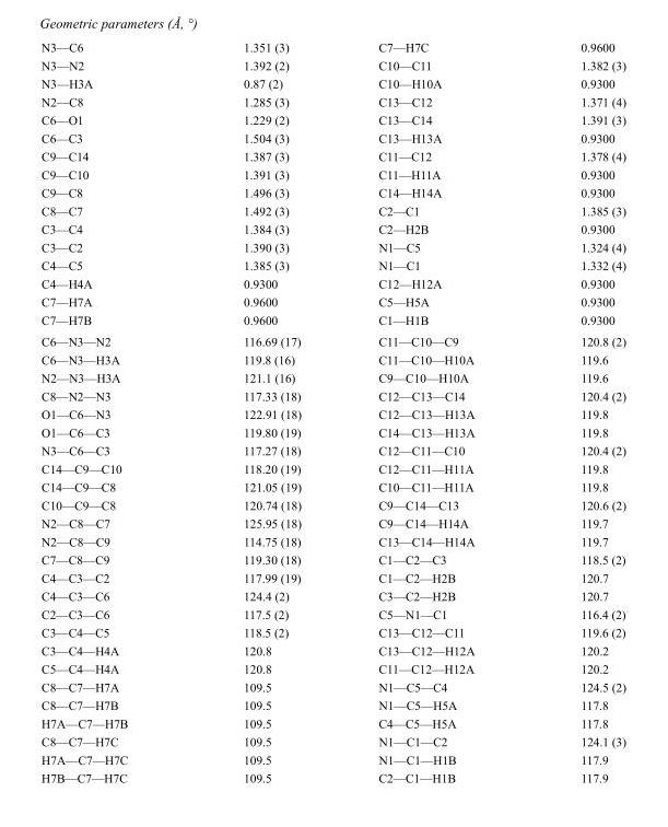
<table><tbody><tr><td>N3—C6</td><td>1.351 (3)</td><td>C7—H7C</td><td>0.9600</td></tr><tr><td>N3—N2</td><td>1.392 (2)</td><td>C10—C11</td><td>1.382 (3)</td></tr><tr><td>N3—H3A</td><td>0.87 (2)</td><td>C10—H10A</td><td>0.9300</td></tr><tr><td>N2—C8</td><td>1.285 (3)</td><td>C13—C12</td><td>1.371 (4)</td></tr><tr><td>C6—O1</td><td>1.229 (2)</td><td>C13—C14</td><td>1.391 (3)</td></tr><tr><td>C6—C3</td><td>1.504 (3)</td><td>C13—H13A</td><td>0.9300</td></tr><tr><td>C9—C14</td><td>1.387 (3)</td><td>C11—C12</td><td>1.378 (4)</td></tr><tr><td>C9—C10</td><td>1.391 (3)</td><td>C11—H11A</td><td>0.9300</td></tr><tr><td>C9—C8</td><td>1.496 (3)</td><td>C14—H14A</td><td>0.9300</td></tr><tr><td>C8—C7</td><td>1.492 (3)</td><td>C2—C1</td><td>1.385 (3)</td></tr><tr><td>C3—C4</td><td>1.384 (3)</td><td>C2—H2B</td><td>0.9300</td></tr><tr><td>C3—C2</td><td>1.390 (3)</td><td>N1—C5</td><td>1.324 (4)</td></tr><tr><td>C4—C5</td><td>1.385 (3)</td><td>N1—C1</td><td>1.332 (4)</td></tr><tr><td>C4—H4A</td><td>0.9300</td><td>C12—H12A</td><td>0.9300</td></tr><tr><td>C7—H7A</td><td>0.9600</td><td>C5—H5A</td><td>0.9300</td></tr><tr><td>C7—H7B</td><td>0.9600</td><td>C1—H1B</td><td>0.9300</td></tr><tr><td>C6—N3—N2</td><td>116.69 (17)</td><td>C11—C10—C9</td><td>120.8 (2)</td></tr><tr><td>C6—N3—H3A</td><td>119.8 (16)</td><td>C11—C10—H10A</td><td>119.6</td></tr><tr><td>N2—N3—H3A</td><td>121.1 (16)</td><td>C9—C10—H10A</td><td>119.6</td></tr><tr><td>C8—N2—N3</td><td>117.33 (18)</td><td>C12—C13—C14</td><td>120.4 (2)</td></tr><tr><td>O1—C6—N3</td><td>122.91 (18)</td><td>C12—C13—H13A</td><td>119.8</td></tr><tr><td>O1—C6—C3</td><td>119.80 (19)</td><td>C14—C13—H13A</td><td>119.8</td></tr><tr><td>N3—C6—C3</td><td>117.27 (18)</td><td>C12—C11—C10</td><td>120.4 (2)</td></tr><tr><td>C14—C9—C10</td><td>118.20 (19)</td><td>C12—C11—H11A</td><td>119.8</td></tr><tr><td>C14—C9—C8</td><td>121.05 (19)</td><td>C10—C11—H11A</td><td>119.8</td></tr><tr><td>C10—C9—C8</td><td>120.74 (18)</td><td>C9—C14—C13</td><td>120.6 (2)</td></tr><tr><td>N2—C8—C7</td><td>125.95 (18)</td><td>C9—C14—H14A</td><td>119.7</td></tr><tr><td>N2—C8—C9</td><td>114.75 (18)</td><td>C13—C14—H14A</td><td>119.7</td></tr><tr><td>C7—C8—C9</td><td>119.30 (18)</td><td>C1—C2—C3</td><td>118.5 (2)</td></tr><tr><td>C4—C3—C2</td><td>117.99 (19)</td><td>C1—C2—H2B</td><td>120.7</td></tr><tr><td>C4—C3—C6</td><td>124.4 (2)</td><td>C3—C2—H2B</td><td>120.7</td></tr><tr><td>C2—C3—C6</td><td>117.5 (2)</td><td>C5—N1—C1</td><td>116.4 (2)</td></tr><tr><td>C3—C4—C5</td><td>118.5 (2)</td><td>C13—C12—C11</td><td>119.6 (2)</td></tr><tr><td>C3—C4—H4A</td><td>120.8</td><td>C13—C12—H12A</td><td>120.2</td></tr><tr><td>C5—C4—H4A</td><td>120.8</td><td>C11—C12—H12A</td><td>120.2</td></tr><tr><td>C8—C7—H7A</td><td>109.5</td><td>N1—C5—C4</td><td>124.5 (2)</td></tr><tr><td>C8—C7—H7B</td><td>109.5</td><td>N1—C5—H5A</td><td>117.8</td></tr><tr><td>H7A—C7—H7B</td><td>109.5</td><td>C4—C5—H5A</td><td>117.8</td></tr><tr><td>C8—C7—H7C</td><td>109.5</td><td>N1—C1—C2</td><td>124.1 (3)</td></tr><tr><td>H7A—C7—H7C</td><td>109.5</td><td>N1—C1—H1B</td><td>117.9</td></tr><tr><td>H7B—C7—H7C</td><td>109.5</td><td>C2—C1—H1B</td><td>117.9</td></tr></tbody></table>